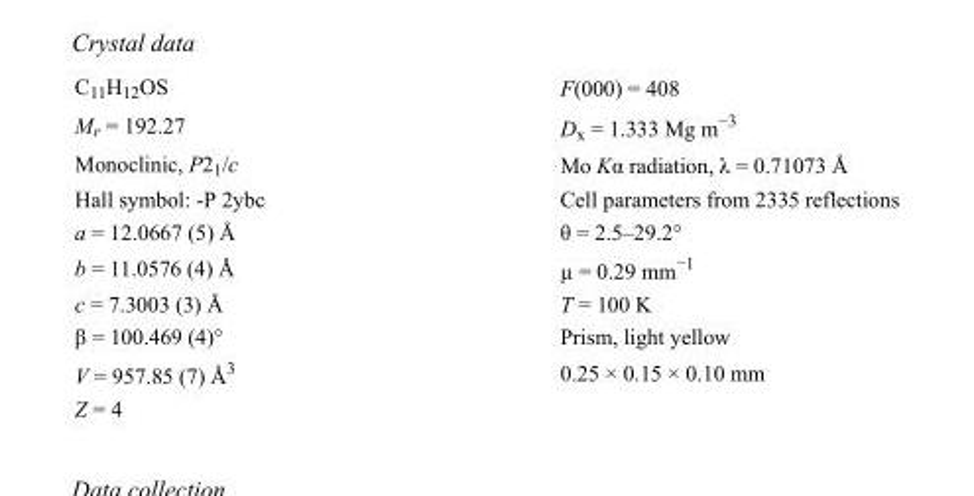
<table><tbody><tr><td>C<sub>11</sub>H<sub>12</sub>OS</td><td>F(000) = 408</td></tr><tr><td>M<sub>r</sub> = 192.27</td><td>D<sub>x</sub> = 1.333 Mg m<sup>−3</sup></td></tr><tr><td>Monoclinic, P2<sub>1</sub>/c</td><td>Mo Kα radiation, λ = 0.71073 Å</td></tr><tr><td>Hall symbol: -P 2ybc</td><td>Cell parameters from 2335 reflections</td></tr><tr><td>a = 12.0667 (5) Å</td><td>θ = 2.5–29.2°</td></tr><tr><td>b = 11.0576 (4) Å</td><td>µ = 0.29 mm<sup>−1</sup></td></tr><tr><td>c = 7.3003 (3) Å</td><td>T = 100 K</td></tr><tr><td>β = 100.469 (4)°</td><td>Prism, light yellow</td></tr><tr><td>V = 957.85 (7) Å<sup>3</sup></td><td>0.25 × 0.15 × 0.10 mm</td></tr><tr><td>Z = 4</td><td></td></tr></tbody></table>